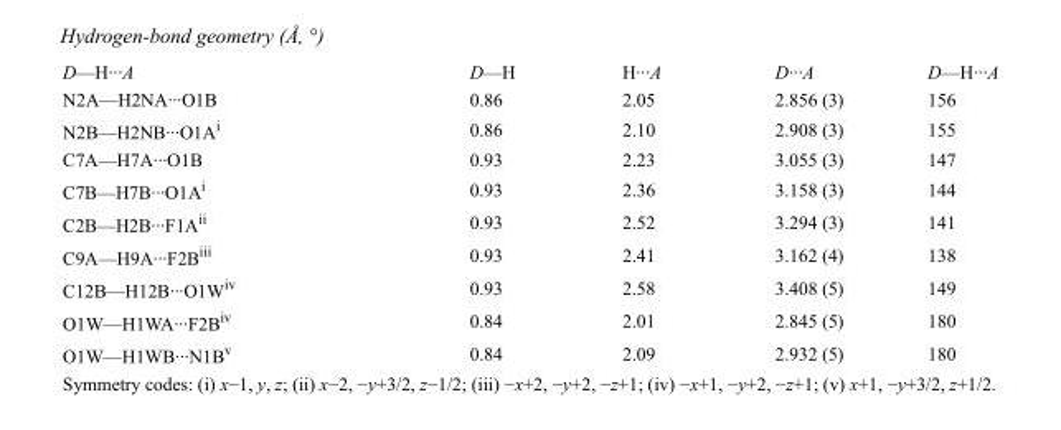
<table><tbody><tr><td>D—H···A</td><td>D—H</td><td>H···A</td><td>D···A</td><td>D—H···A</td></tr><tr><td>N2A—H2NA···O1B</td><td>0.86</td><td>2.05</td><td>2.856 (3)</td><td>156</td></tr><tr><td>N2B—H2NB···O1A<sup>i</sup></td><td>0.86</td><td>2.10</td><td>2.908 (3)</td><td>155</td></tr><tr><td>C7A—H7A···O1B</td><td>0.93</td><td>2.23</td><td>3.055 (3)</td><td>147</td></tr><tr><td>C7B—H7B···O1A<sup>i</sup></td><td>0.93</td><td>2.36</td><td>3.158 (3)</td><td>144</td></tr><tr><td>C2B—H2B···F1A<sup>ii</sup></td><td>0.93</td><td>2.52</td><td>3.294 (3)</td><td>141</td></tr><tr><td>C9A—H9A···F2B<sup>iii</sup></td><td>0.93</td><td>2.41</td><td>3.162 (4)</td><td>138</td></tr><tr><td>C12B—H12B···O1W<sup>iv</sup></td><td>0.93</td><td>2.58</td><td>3.408 (5)</td><td>149</td></tr><tr><td>O1W—H1WA···F2B<sup>iv</sup></td><td>0.84</td><td>2.01</td><td>2.845 (5)</td><td>180</td></tr><tr><td>O1W—H1WB···N1B<sup>v</sup></td><td>0.84</td><td>2.09</td><td>2.932 (5)</td><td>180</td></tr></tbody></table>